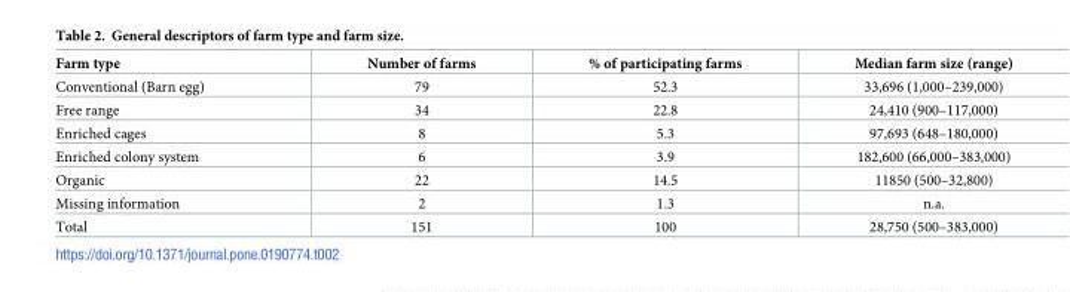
<table><thead><tr><td>Farm type</td><td>Number of farms</td><td>% of participating farms</td><td>Median farm size (range)</td></tr></thead><tbody><tr><td>Conventional (Barn egg)</td><td>79</td><td>52.3</td><td>33,696 (1,000–239,000)</td></tr><tr><td>Free range</td><td>34</td><td>22.8</td><td>24,410 (900–117,000)</td></tr><tr><td>Enriched cages</td><td>8</td><td>5.3</td><td>97,693 (648–180,000)</td></tr><tr><td>Enriched colony system</td><td>6</td><td>3.9</td><td>182,600 (66,000–383,000)</td></tr><tr><td>Organic</td><td>22</td><td>14.5</td><td>11850 (500–32,800)</td></tr><tr><td>Missing information</td><td>2</td><td>1.3</td><td>n.a.</td></tr><tr><td>Total</td><td>151</td><td>100</td><td>28,750 (500–383,000)</td></tr></tbody></table>